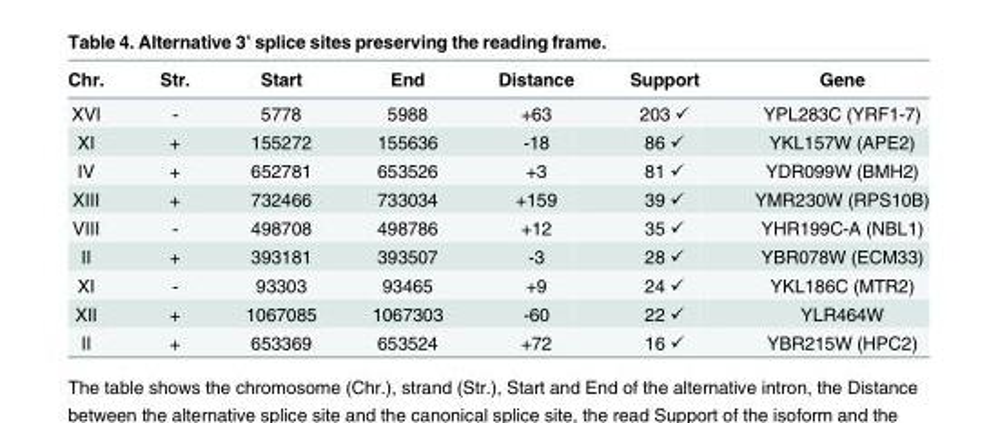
<table><thead><tr><td>Chr.</td><td>Str.</td><td>Start</td><td>End</td><td>Distance</td><td>Support</td><td>Gene</td></tr></thead><tbody><tr><td>XVI</td><td>-</td><td>5778</td><td>5988</td><td>+63</td><td>203 ✓</td><td>YPL283C (YRF1-7)</td></tr><tr><td>XI</td><td>+</td><td>155272</td><td>155636</td><td>-18</td><td>86 ✓</td><td>YKL157W (APE2)</td></tr><tr><td>IV</td><td>+</td><td>652781</td><td>653526</td><td>+3</td><td>81 ✓</td><td>YDR099W (BMH2)</td></tr><tr><td>XIII</td><td>+</td><td>732466</td><td>733034</td><td>+159</td><td>39 ✓</td><td>YMR230W (RPS10B)</td></tr><tr><td>VIII</td><td>-</td><td>498708</td><td>498786</td><td>+12</td><td>35 ✓</td><td>YHR199C-A (NBL1)</td></tr><tr><td>II</td><td>+</td><td>393181</td><td>393507</td><td>-3</td><td>28 ✓</td><td>YBR078W (ECM33)</td></tr><tr><td>XI</td><td>-</td><td>93303</td><td>93465</td><td>+9</td><td>24 ✓</td><td>YKL186C (MTR2)</td></tr><tr><td>XII</td><td>+</td><td>1067085</td><td>1067303</td><td>-60</td><td>22 ✓</td><td>YLR464W</td></tr><tr><td>II</td><td>+</td><td>653369</td><td>653524</td><td>+72</td><td>16 ✓</td><td>YBR215W (HPC2)</td></tr></tbody></table>